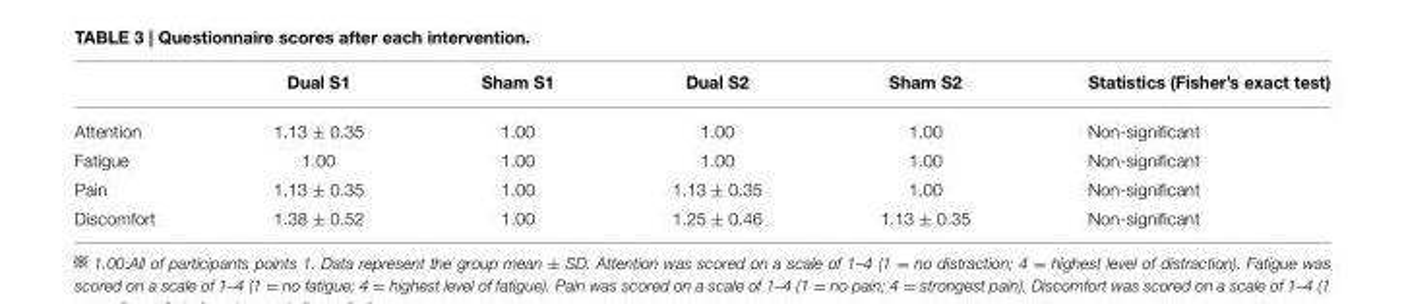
<table><thead><tr><td></td><td>Dual S1</td><td>Sham S1</td><td>Dual S2</td><td>Sham S2</td><td>Statistics (Fisher’s exact test)</td></tr></thead><tbody><tr><td>Attention</td><td>1.13 ± 0.35</td><td>1.00</td><td>1.00</td><td>1.00</td><td>Non-significant</td></tr><tr><td>Fatigue</td><td>1.00</td><td>1.00</td><td>1.00</td><td>1.00</td><td>Non-significant</td></tr><tr><td>Pain</td><td>1.13 ± 0.35</td><td>1.00</td><td>1.13 ± 0.35</td><td>1.00</td><td>Non-significant</td></tr><tr><td>Discomfort</td><td>1.38 ± 0.52</td><td>1.00</td><td>1.25 ± 0.46</td><td>1.13 ± 0.35</td><td>Non-significant</td></tr></tbody></table>